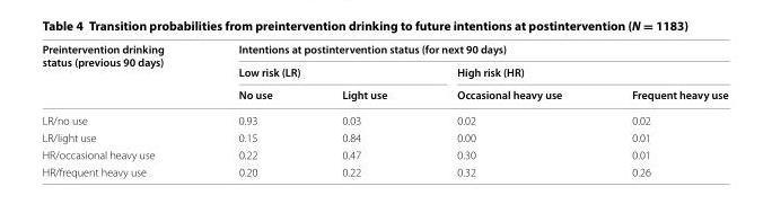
<table><thead><tr><td rowspan="3">Preintervention drinking status (previous 90 days)</td><td colspan="4">Intentions at postintervention status (for next 90 days)</td></tr><tr><td colspan="2">Low risk (LR)</td><td colspan="2">High risk (HR)</td></tr><tr><td>No use</td><td>Light use</td><td>Occasional heavy use</td><td>Frequent heavy use</td></tr></thead><tbody><tr><td>LR/no use</td><td>0.93</td><td>0.03</td><td>0.02</td><td>0.02</td></tr><tr><td>LR/light use</td><td>0.15</td><td>0.84</td><td>0.00</td><td>0.01</td></tr><tr><td>HR/occasional heavy use</td><td>0.22</td><td>0.47</td><td>0.30</td><td>0.01</td></tr><tr><td>HR/frequent heavy use</td><td>0.20</td><td>0.22</td><td>0.32</td><td>0.26</td></tr></tbody></table>